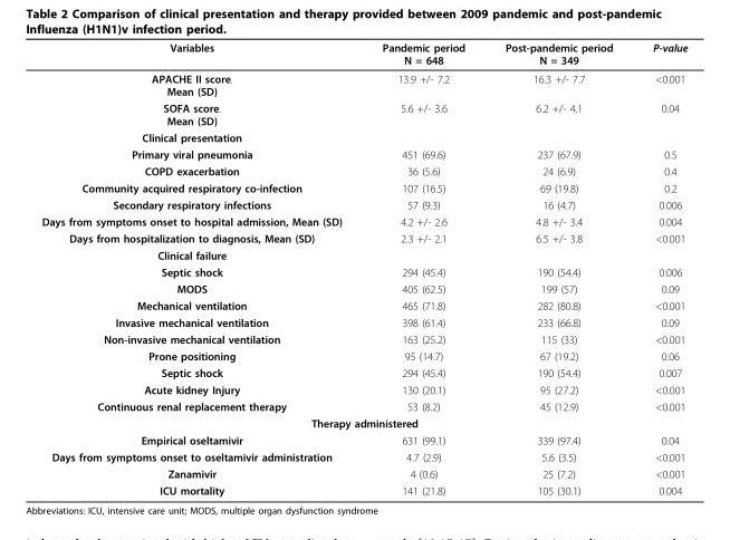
<table><thead><tr><td>Variables</td><td>Pandemic period N = 648</td><td>Post-pandemic period N = 349</td><td>P-value</td></tr></thead><tbody><tr><td>APACHE II score. Mean (SD)</td><td>13.9 +/- 7.2</td><td>16.3 +/- 7.7</td><td>&lt;0.001</td></tr><tr><td>SOFA score. Mean (SD)</td><td>5.6 +/- 3.6</td><td>6.2 +/- 4.1</td><td>0.04</td></tr><tr><td colspan="4">Clinical presentation</td></tr><tr><td>Primary viral pneumonia</td><td>451 (69.6)</td><td>237 (67.9)</td><td>0.5</td></tr><tr><td>COPD exacerbation</td><td>36 (5.6)</td><td>24 (6.9)</td><td>0.4</td></tr><tr><td>Community acquired respiratory co-infection</td><td>107 (16.5)</td><td>69 (19.8)</td><td>0.2</td></tr><tr><td>Secondary respiratory infections</td><td>57 (9.3)</td><td>16 (4.7)</td><td>0.006</td></tr><tr><td>Days from symptoms onset to hospital admission, Mean (SD)</td><td>4.2 +/- 2.6</td><td>4.8 +/- 3.4</td><td>0.004</td></tr><tr><td>Days from hospitalization to diagnosis, Mean (SD)</td><td>2.3 +/- 2.1</td><td>6.5 +/- 3.8</td><td>&lt;0.001</td></tr><tr><td colspan="4">Clinical failure</td></tr><tr><td>Septic shock</td><td>294 (45.4)</td><td>190 (54.4)</td><td>0.006</td></tr><tr><td>MODS</td><td>405 (62.5)</td><td>199 (57)</td><td>0.09</td></tr><tr><td>Mechanical ventilation</td><td>465 (71.8)</td><td>282 (80.8)</td><td>&lt;0.001</td></tr><tr><td>Invasive mechanical ventilation</td><td>398 (61.4)</td><td>233 (66.8)</td><td>0.09</td></tr><tr><td>Non-invasive mechanical ventilation</td><td>163 (25.2)</td><td>115 (33)</td><td>&lt;0.001</td></tr><tr><td>Prone positioning</td><td>95 (14.7)</td><td>67 (19.2)</td><td>0.06</td></tr><tr><td>Septic shock</td><td>294 (45.4)</td><td>190 (54.4)</td><td>0.007</td></tr><tr><td>Acute kidney Injury</td><td>130 (20.1)</td><td>95 (27.2)</td><td>&lt;0.001</td></tr><tr><td>Continuous renal replacement therapy</td><td>53 (8.2)</td><td>45 (12.9)</td><td>&lt;0.001</td></tr><tr><td colspan="4">Therapy administered</td></tr><tr><td>Empirical oseltamivir</td><td>631 (99.1)</td><td>339 (97.4)</td><td>0.04</td></tr><tr><td>Days from symptoms onset to oseltamivir administration</td><td>4.7 (2.9)</td><td>5.6 (3.5)</td><td>&lt;0.001</td></tr><tr><td>Zanamivir</td><td>4 (0.6)</td><td>25 (7.2)</td><td>&lt;0.001</td></tr><tr><td>ICU mortality</td><td>141 (21.8)</td><td>105 (30.1)</td><td>0.004</td></tr></tbody></table>